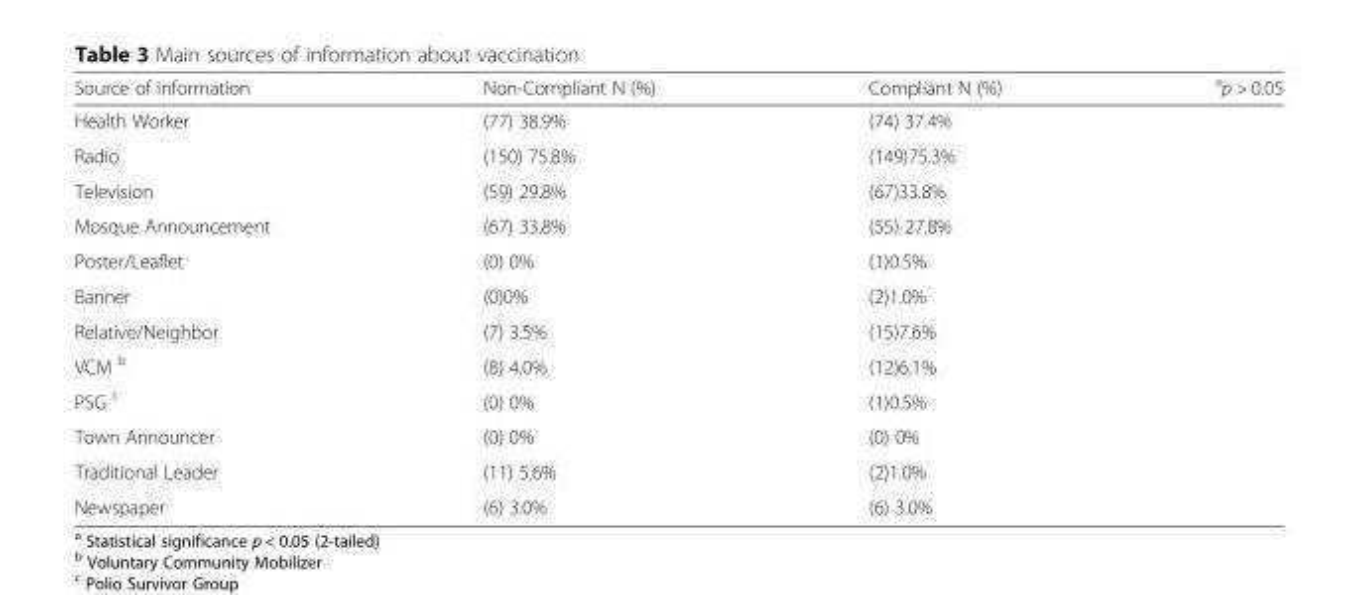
<table><thead><tr><td>Source of information</td><td>Non-Compliant N (%)</td><td>Compliant N (%)</td><td><sup>a</sup>p &gt; 0.05</td></tr></thead><tbody><tr><td>Health Worker</td><td>(77) 38.9%</td><td>(74) 37.4%</td><td></td></tr><tr><td>Radio</td><td>(150) 75.8%</td><td>(149)75.3%</td><td></td></tr><tr><td>Television</td><td>(59) 29.8%</td><td>(67)33.8%</td><td></td></tr><tr><td>Mosque Announcement</td><td>(67) 33.8%</td><td>(55) 27.8%</td><td></td></tr><tr><td>Poster/Leaflet</td><td>(0) 0%</td><td>(1)0.5%</td><td></td></tr><tr><td>Banner</td><td>(0)0%</td><td>(2)1.0%</td><td></td></tr><tr><td>Relative/Neighbor</td><td>(7) 3.5%</td><td>(15)7.6%</td><td></td></tr><tr><td>VCM <sup>b</sup></td><td>(8) 4.0%</td><td>(12)6.1%</td><td></td></tr><tr><td>PSG <sup>c</sup></td><td>(0) 0%</td><td>(1)0.5%</td><td></td></tr><tr><td>Town Announcer</td><td>(0) 0%</td><td>(0) 0%</td><td></td></tr><tr><td>Traditional Leader</td><td>(11) 5.6%</td><td>(2)1.0%</td><td></td></tr><tr><td>Newspaper</td><td>(6) 3.0%</td><td>(6) 3.0%</td><td></td></tr></tbody></table>